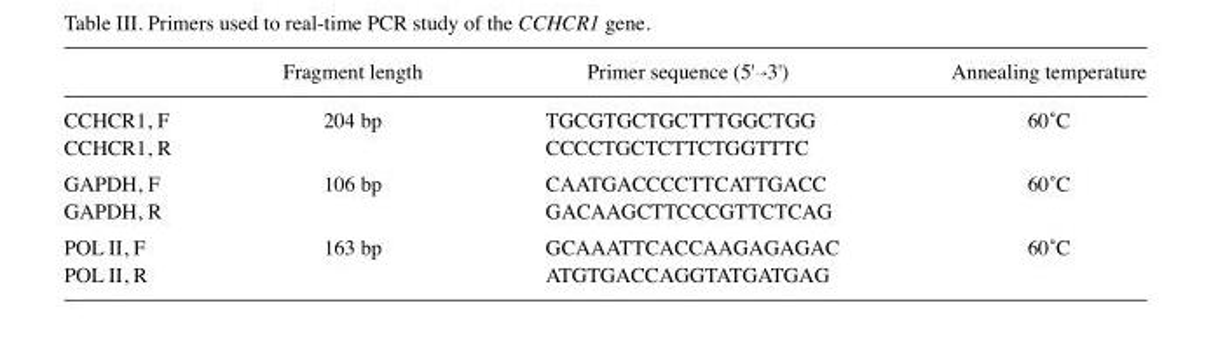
<table><thead><tr><td></td><td>Fragment length</td><td>Primer sequence (5&#x27;→3&#x27;)</td><td>Annealing temperature</td></tr></thead><tbody><tr><td>CCHCR1, F</td><td>204 bp</td><td>TGCGTGCTGCTTTGGCTGG</td><td>60˚C</td></tr><tr><td>CCHCR1, R</td><td></td><td>CCCCTGCTCTTCTGGTTTC</td><td></td></tr><tr><td>GAPDH, F</td><td>106 bp</td><td>CAATGACCCCTTCATTGACC</td><td>60˚C</td></tr><tr><td>GAPDH, R</td><td></td><td>GACAAGCTTCCCGTTCTCAG</td><td></td></tr><tr><td>POL II, F</td><td>163 bp</td><td>GCAAATTCACCAAGAGAGAC</td><td>60˚C</td></tr><tr><td>POL II, R</td><td></td><td>ATGTGACCAGGTATGATGAG</td><td></td></tr></tbody></table>